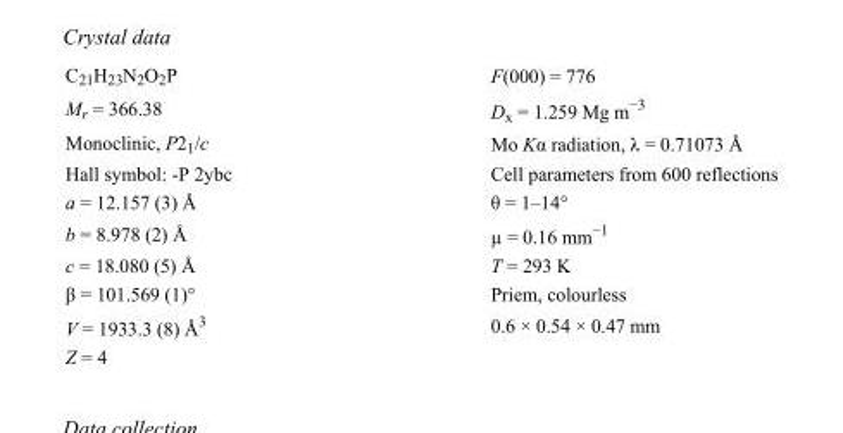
<table><tbody><tr><td>C<sub>21</sub>H<sub>23</sub>N<sub>2</sub>O<sub>2</sub>P</td><td>F(000) = 776</td></tr><tr><td>M<sub>r</sub> = 366.38</td><td>D<sub>x</sub> = 1.259 Mg m<sup>−3</sup></td></tr><tr><td>Monoclinic, P2<sub>1</sub>/c</td><td>Mo Kα radiation, λ = 0.71073 Å</td></tr><tr><td>Hall symbol: -P 2ybc</td><td>Cell parameters from 600 reflections</td></tr><tr><td>a = 12.157 (3) Å</td><td>θ = 1–14°</td></tr><tr><td>b = 8.978 (2) Å</td><td>µ = 0.16 mm<sup>−1</sup></td></tr><tr><td>c = 18.080 (5) Å</td><td>T = 293 K</td></tr><tr><td>β = 101.569 (1)°</td><td>Priem, colourless</td></tr><tr><td>V = 1933.3 (8) Å<sup>3</sup></td><td>0.6 × 0.54 × 0.47 mm</td></tr><tr><td>Z = 4</td><td></td></tr></tbody></table>